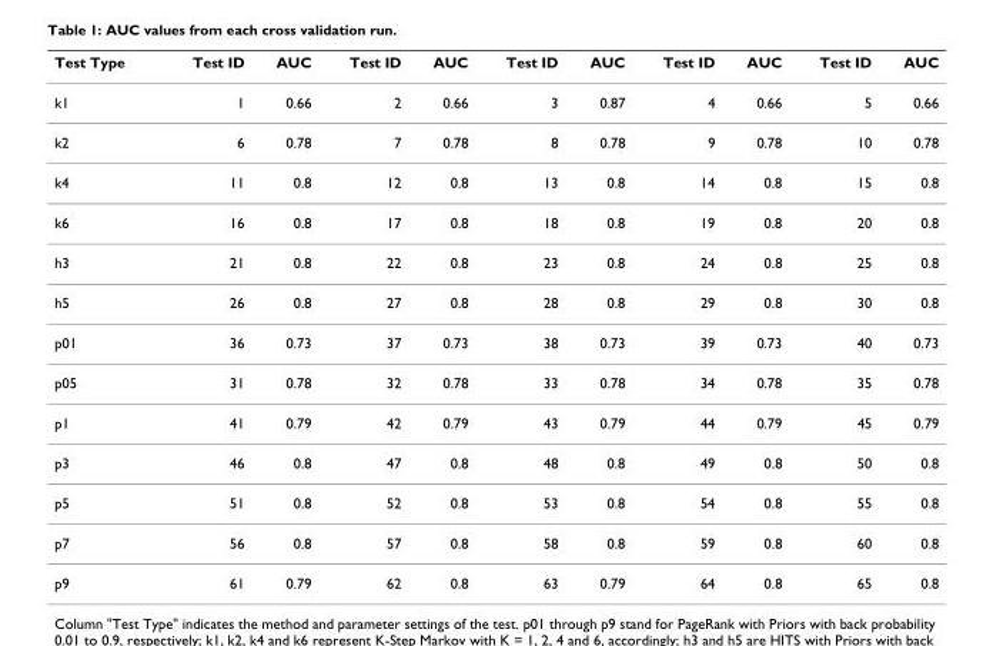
<table><thead><tr><td>Test Type</td><td>Test ID</td><td>AUC</td><td>Test ID</td><td>AUC</td><td>Test ID</td><td>AUC</td><td>Test ID</td><td>AUC</td><td>Test ID</td><td>AUC</td></tr></thead><tbody><tr><td>k1</td><td>1</td><td>0.66</td><td>2</td><td>0.66</td><td>3</td><td>0.87</td><td>4</td><td>0.66</td><td>5</td><td>0.66</td></tr><tr><td>k2</td><td>6</td><td>0.78</td><td>7</td><td>0.78</td><td>8</td><td>0.78</td><td>9</td><td>0.78</td><td>10</td><td>0.78</td></tr><tr><td>k4</td><td>11</td><td>0.8</td><td>12</td><td>0.8</td><td>13</td><td>0.8</td><td>14</td><td>0.8</td><td>15</td><td>0.8</td></tr><tr><td>k6</td><td>16</td><td>0.8</td><td>17</td><td>0.8</td><td>18</td><td>0.8</td><td>19</td><td>0.8</td><td>20</td><td>0.8</td></tr><tr><td>h3</td><td>21</td><td>0.8</td><td>22</td><td>0.8</td><td>23</td><td>0.8</td><td>24</td><td>0.8</td><td>25</td><td>0.8</td></tr><tr><td>h5</td><td>26</td><td>0.8</td><td>27</td><td>0.8</td><td>28</td><td>0.8</td><td>29</td><td>0.8</td><td>30</td><td>0.8</td></tr><tr><td>p01</td><td>36</td><td>0.73</td><td>37</td><td>0.73</td><td>38</td><td>0.73</td><td>39</td><td>0.73</td><td>40</td><td>0.73</td></tr><tr><td>p05</td><td>31</td><td>0.78</td><td>32</td><td>0.78</td><td>33</td><td>0.78</td><td>34</td><td>0.78</td><td>35</td><td>0.78</td></tr><tr><td>p1</td><td>41</td><td>0.79</td><td>42</td><td>0.79</td><td>43</td><td>0.79</td><td>44</td><td>0.79</td><td>45</td><td>0.79</td></tr><tr><td>p3</td><td>46</td><td>0.8</td><td>47</td><td>0.8</td><td>48</td><td>0.8</td><td>49</td><td>0.8</td><td>50</td><td>0.8</td></tr><tr><td>p5</td><td>51</td><td>0.8</td><td>52</td><td>0.8</td><td>53</td><td>0.8</td><td>54</td><td>0.8</td><td>55</td><td>0.8</td></tr><tr><td>p7</td><td>56</td><td>0.8</td><td>57</td><td>0.8</td><td>58</td><td>0.8</td><td>59</td><td>0.8</td><td>60</td><td>0.8</td></tr><tr><td>p9</td><td>61</td><td>0.79</td><td>62</td><td>0.8</td><td>63</td><td>0.79</td><td>64</td><td>0.8</td><td>65</td><td>0.8</td></tr></tbody></table>